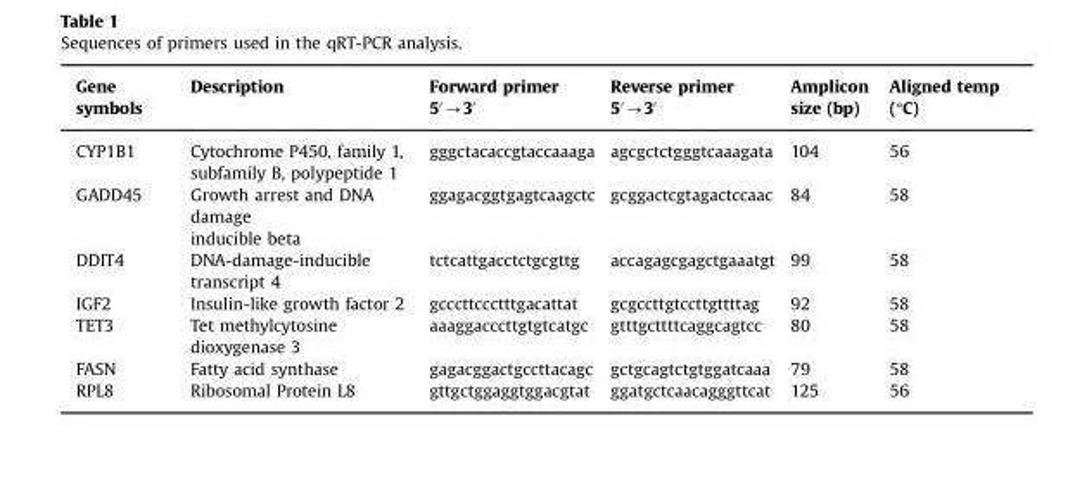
<table><thead><tr><td>Gene symbols</td><td>Description</td><td>Forward primer 50-30</td><td>Reverse primer 50-30</td><td>Amplicon size (bp)</td><td>Aligned temp (°C)</td></tr></thead><tbody><tr><td>CYP1B1</td><td>Cytochrome P450, family 1, subfamily B, polypeptide 1</td><td>gggctacaccgtaccaaaga</td><td>agcgctctgggtcaaagata</td><td>104</td><td>56</td></tr><tr><td>GADD45</td><td>Growth arrest and DNA damage inducible beta</td><td>ggagacggtgagtcaagctc</td><td>gcggactcgtagactccaac</td><td>84</td><td>58</td></tr><tr><td>DDIT4</td><td>DNA-damage-inducible transcript 4</td><td>tctcattgacctctgcgttg</td><td>accagagcgagctgaaatgt</td><td>99</td><td>58</td></tr><tr><td>IGF2</td><td>Insulin-like growth factor 2</td><td>gcccttccctttgacattat</td><td>gcgccttgtccttgttttag</td><td>92</td><td>58</td></tr><tr><td>TET3</td><td>Tet methylcytosine dioxygenase 3</td><td>aaaggacccttgtgtcatgc</td><td>gtttgcttttcaggcagtcc</td><td>80</td><td>58</td></tr><tr><td>FASN</td><td>Fatty acid synthase</td><td>gagacggactgccttacagc</td><td>gctgcagtctgtggatcaaa</td><td>79</td><td>58</td></tr><tr><td>RPL8</td><td>Ribosomal Protein L8</td><td>gttgctggaggtggacgtat</td><td>ggatgctcaacagggttcat</td><td>125</td><td>56</td></tr></tbody></table>